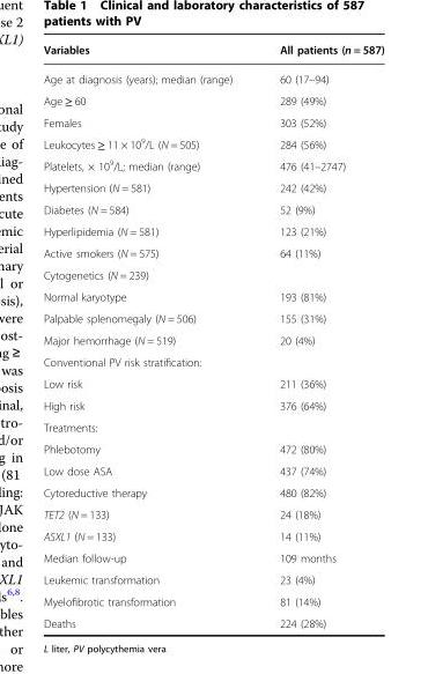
<table><thead><tr><td>Variables</td><td>All patients (n = 587)</td></tr></thead><tbody><tr><td>Age at diagnosis (years); median (range)</td><td>60 (17–94)</td></tr><tr><td>Age ≥ 60</td><td>289 (49%)</td></tr><tr><td>Females</td><td>303 (52%)</td></tr><tr><td>Leukocytes ≥ 11 × 10<sup>9</sup>/L (N = 505)</td><td>284 (56%)</td></tr><tr><td>Platelets, × 10<sup>9</sup>/L; median (range)</td><td>476 (41–2747)</td></tr><tr><td>Hypertension (N = 581)</td><td>242 (42%)</td></tr><tr><td>Diabetes (N = 584)</td><td>52 (9%)</td></tr><tr><td>Hyperlipidemia (N = 581)</td><td>123 (21%)</td></tr><tr><td>Active smokers (N = 575)</td><td>64 (11%)</td></tr><tr><td colspan="2">Cytogenetics (N = 239)</td></tr><tr><td>Normal karyotype</td><td>193 (81%)</td></tr><tr><td>Palpable splenomegaly (N = 506)</td><td>155 (31%)</td></tr><tr><td>Major hemorrhage (N = 519)</td><td>20 (4%)</td></tr><tr><td colspan="2">Conventional PV risk stratification:</td></tr><tr><td>Low risk</td><td>211 (36%)</td></tr><tr><td>High risk</td><td>376 (64%)</td></tr><tr><td colspan="2">Treatments:</td></tr><tr><td>Phlebotomy</td><td>472 (80%)</td></tr><tr><td>Low dose ASA</td><td>437 (74%)</td></tr><tr><td>Cytoreductive therapy</td><td>480 (82%)</td></tr><tr><td>TET2 (N = 133)</td><td>24 (18%)</td></tr><tr><td>ASXL1 (N = 133)</td><td>14 (11%)</td></tr><tr><td>Median follow-up</td><td>109 months</td></tr><tr><td>Leukemic transformation</td><td>23 (4%)</td></tr><tr><td>Myelofibrotic transformation</td><td>81 (14%)</td></tr><tr><td>Deaths</td><td>224 (28%)</td></tr></tbody></table>